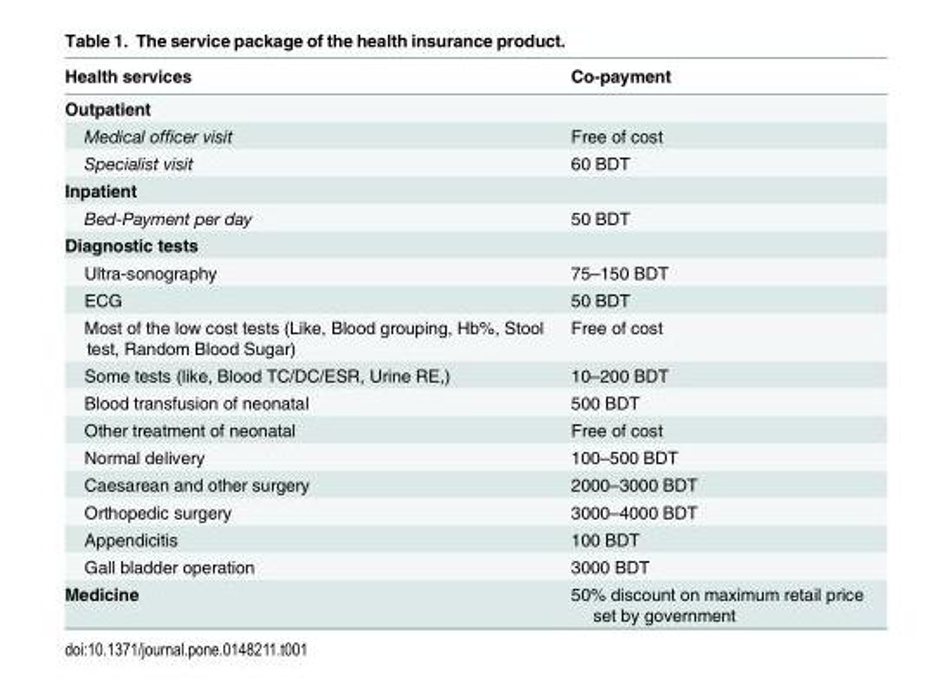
<table><thead><tr><td>Health services</td><td>Co-payment</td></tr></thead><tbody><tr><td colspan="2">Outpatient</td></tr><tr><td>Medical officer visit</td><td>Free of cost</td></tr><tr><td>Specialist visit</td><td>60 BDT</td></tr><tr><td colspan="2">Inpatient</td></tr><tr><td>Bed-Payment per day</td><td>50 BDT</td></tr><tr><td colspan="2">Diagnostic tests</td></tr><tr><td>Ultra-sonography</td><td>75–150 BDT</td></tr><tr><td>ECG</td><td>50 BDT</td></tr><tr><td>Most of the low cost tests (Like, Blood grouping, Hb%, Stool test, Random Blood Sugar)</td><td>Free of cost</td></tr><tr><td>Some tests (like, Blood TC/DC/ESR, Urine RE,)</td><td>10–200 BDT</td></tr><tr><td>Blood transfusion of neonatal</td><td>500 BDT</td></tr><tr><td>Other treatment of neonatal</td><td>Free of cost</td></tr><tr><td>Normal delivery</td><td>100–500 BDT</td></tr><tr><td>Caesarean and other surgery</td><td>2000–3000 BDT</td></tr><tr><td>Orthopedic surgery</td><td>3000–4000 BDT</td></tr><tr><td>Appendicitis</td><td>100 BDT</td></tr><tr><td>Gall bladder operation</td><td>3000 BDT</td></tr><tr><td>Medicine</td><td>50% discount on maximum retail price set by government</td></tr></tbody></table>